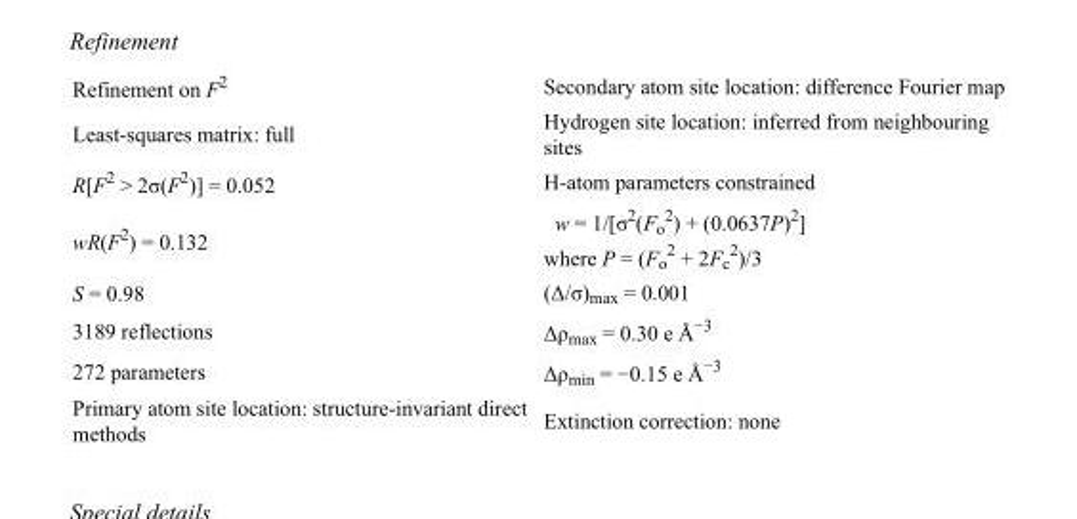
<table><tbody><tr><td>Refinement on F<sup>2</sup></td><td>Secondary atom site location: difference Fourier map</td></tr><tr><td>Least-squares matrix: full</td><td>Hydrogen site location: inferred from neighbouring sites</td></tr><tr><td>R[F<sup>2</sup> &gt; 2σ(F<sup>2</sup>)] = 0.052</td><td>H-atom parameters constrained</td></tr><tr><td>wR(F<sup>2</sup>) = 0.132</td><td>w = 1/[σ<sup>2</sup>(F<sub>o</sub> <sup>2</sup>) + (0.0637P)<sup>2</sup>] where P = (F<sub>o</sub> <sup>2</sup> + 2F<sub>c</sub> <sup>2</sup>)/3</td></tr><tr><td>S = 0.98</td><td>(Δ/σ)<sub>max</sub> = 0.001</td></tr><tr><td>3189 reflections</td><td>Δρ<sub>max</sub> = 0.30 e Å<sup>−3</sup></td></tr><tr><td>272 parameters</td><td>Δρ<sub>min</sub> = −0.15 e Å<sup>−3</sup></td></tr><tr><td>Primary atom site location: structure-invariant direct methods</td><td>Extinction correction: none</td></tr></tbody></table>